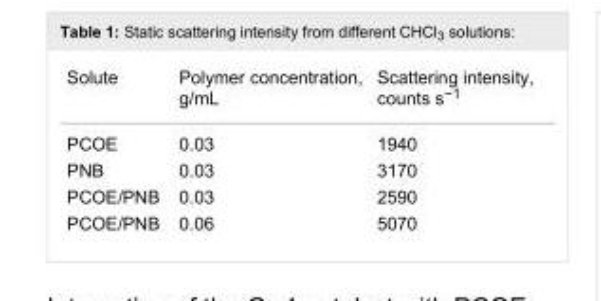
<table><tbody><tr><td>Solute</td><td>Polymer concentration, g/mL</td><td>Scattering intensity, counts s<sup>−1</sup></td></tr><tr><td>PCOE</td><td>0.03</td><td>1940</td></tr><tr><td>PNB</td><td>0.03</td><td>3170</td></tr><tr><td>PCOE/PNB</td><td>0.03</td><td>2590</td></tr><tr><td>PCOE/PNB</td><td>0.06</td><td>5070</td></tr></tbody></table>